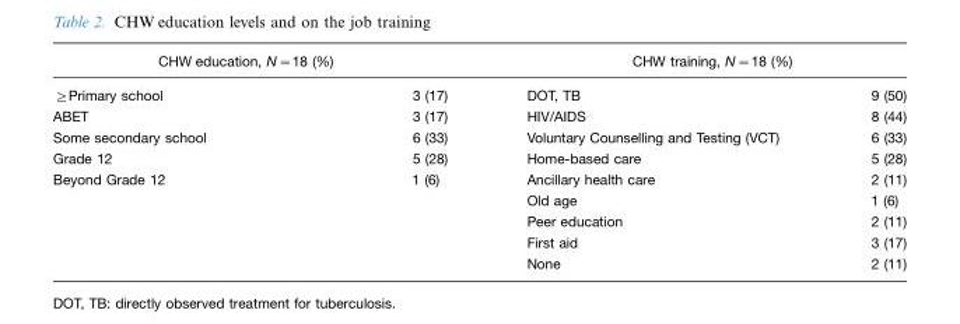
<table><thead><tr><td>CHW education, N=18 (%)</td><td></td><td>CHW training, N=18 (%)</td><td></td></tr></thead><tbody><tr><td>≥Primary school</td><td>3 (17)</td><td>DOT, TB</td><td>9 (50)</td></tr><tr><td>ABET</td><td>3 (17)</td><td>HIV/AIDS</td><td>8 (44)</td></tr><tr><td>Some secondary school</td><td>6 (33)</td><td>Voluntary Counselling and Testing (VCT)</td><td>6 (33)</td></tr><tr><td>Grade 12</td><td>5 (28)</td><td>Home-based care</td><td>5 (28)</td></tr><tr><td rowspan="5">Beyond Grade 12</td><td>1 (6)</td><td>Ancillary health care</td><td>2 (11)</td></tr><tr><td></td><td>Old age</td><td>1 (6)</td></tr><tr><td></td><td>Peer education</td><td>2 (11)</td></tr><tr><td></td><td>First aid</td><td>3 (17)</td></tr><tr><td></td><td>None</td><td>2 (11)</td></tr></tbody></table>